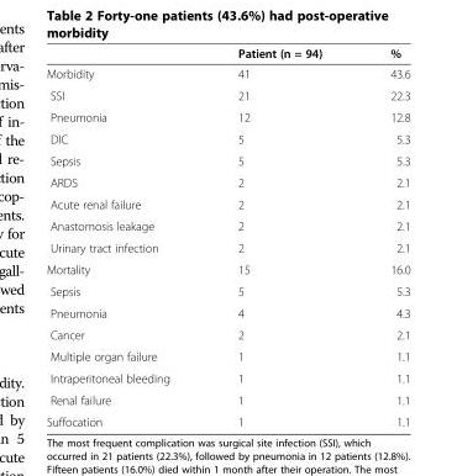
<table><thead><tr><td></td><td>Patient (n = 94)</td><td>%</td></tr></thead><tbody><tr><td>Morbidity</td><td>41</td><td>43.6</td></tr><tr><td>SSI</td><td>21</td><td>22.3</td></tr><tr><td>Pneumonia</td><td>12</td><td>12.8</td></tr><tr><td>DIC</td><td>5</td><td>5.3</td></tr><tr><td>Sepsis</td><td>5</td><td>5.3</td></tr><tr><td>ARDS</td><td>2</td><td>2.1</td></tr><tr><td>Acute renal failure</td><td>2</td><td>2.1</td></tr><tr><td>Anastomosis leakage</td><td>2</td><td>2.1</td></tr><tr><td>Urinary tract infection</td><td>2</td><td>2.1</td></tr><tr><td>Mortality</td><td>15</td><td>16.0</td></tr><tr><td>Sepsis</td><td>5</td><td>5.3</td></tr><tr><td>Pneumonia</td><td>4</td><td>4.3</td></tr><tr><td>Cancer</td><td>2</td><td>2.1</td></tr><tr><td>Multiple organ failure</td><td>1</td><td>1.1</td></tr><tr><td>Intraperitoneal bleeding</td><td>1</td><td>1.1</td></tr><tr><td>Renal failure</td><td>1</td><td>1.1</td></tr><tr><td>Suffocation</td><td>1</td><td>1.1</td></tr></tbody></table>